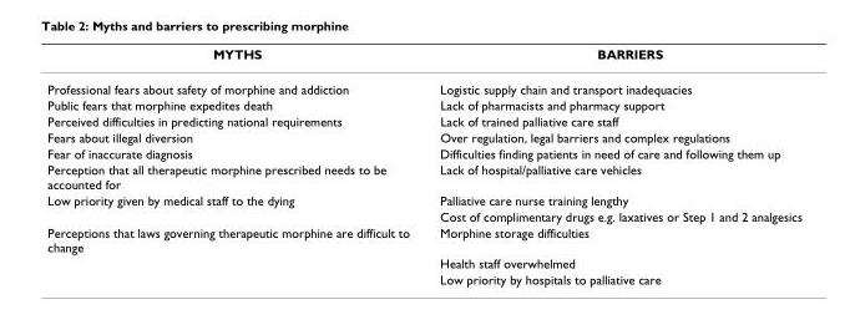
<table><thead><tr><td>MYTHS</td><td>BARRIERS</td></tr></thead><tbody><tr><td>Professional fears about safety of morphine and addiction</td><td>Logistic supply chain and transport inadequacies</td></tr><tr><td>Public fears that morphine expedites death</td><td>Lack of pharmacists and pharmacy support</td></tr><tr><td>Perceived difficulties in predicting national requirements</td><td>Lack of trained palliative care staff</td></tr><tr><td>Fears about illegal diversion</td><td>Over regulation, legal barriers and complex regulations</td></tr><tr><td>Fear of inaccurate diagnosis</td><td>Difficulties finding patients in need of care and following them up</td></tr><tr><td>Perception that all therapeutic morphine prescribed needs to be accounted for</td><td>Lack of hospital/palliative care vehicles</td></tr><tr><td rowspan="2">Low priority given by medical staff to the dying</td><td>Palliative care nurse training lengthy</td></tr><tr><td>Cost of complimentary drugs e.g. laxatives or Step 1 and 2 analgesics</td></tr><tr><td rowspan="3">Perceptions that laws governing therapeutic morphine are difficult to change</td><td>Morphine storage difficulties</td></tr><tr><td>Health staff overwhelmed</td></tr><tr><td>Low priority by hospitals to palliative care</td></tr></tbody></table>